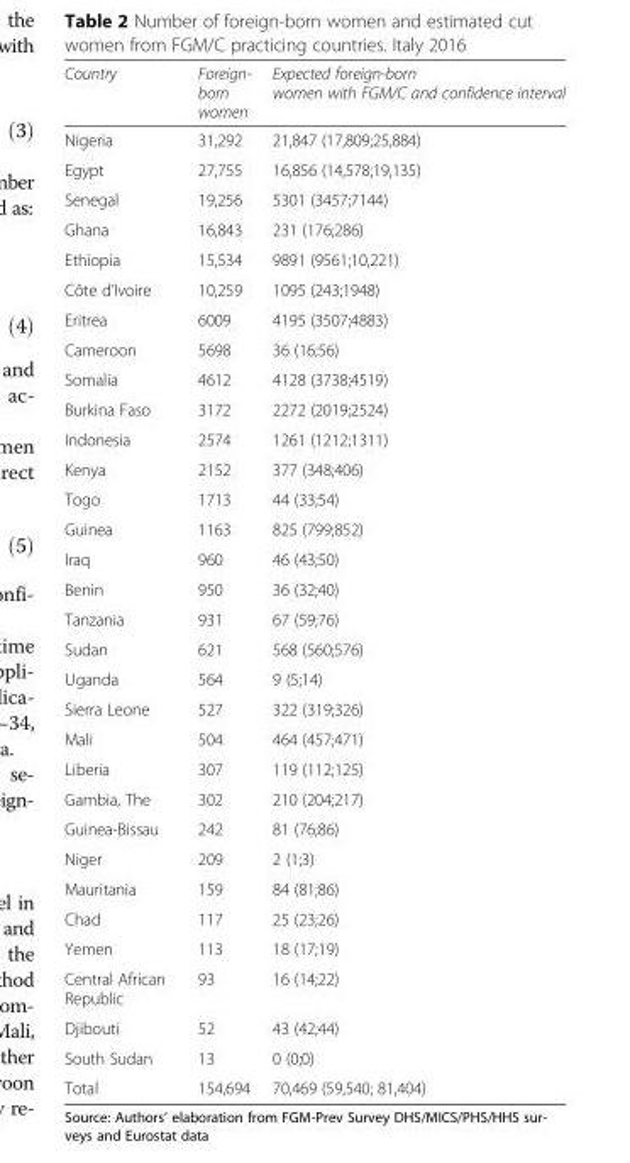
<table><thead><tr><td>Country</td><td>Foreign- born women</td><td>Expected foreign-born women with FGM/C and confidence interval</td></tr></thead><tbody><tr><td>Nigeria</td><td>31,292</td><td>21,847 (17,809;25,884)</td></tr><tr><td>Egypt</td><td>27,755</td><td>16,856 (14,578;19,135)</td></tr><tr><td>Senegal</td><td>19,256</td><td>5301 (3457;7144)</td></tr><tr><td>Ghana</td><td>16,843</td><td>231 (176;286)</td></tr><tr><td>Ethiopia</td><td>15,534</td><td>9891 (9561;10,221)</td></tr><tr><td>Côte d’Ivoire</td><td>10,259</td><td>1095 (243;1948)</td></tr><tr><td>Eritrea</td><td>6009</td><td>4195 (3507;4883)</td></tr><tr><td>Cameroon</td><td>5698</td><td>36 (16;56)</td></tr><tr><td>Somalia</td><td>4612</td><td>4128 (3738;4519)</td></tr><tr><td>Burkina Faso</td><td>3172</td><td>2272 (2019;2524)</td></tr><tr><td>Indonesia</td><td>2574</td><td>1261 (1212;1311)</td></tr><tr><td>Kenya</td><td>2152</td><td>377 (348;406)</td></tr><tr><td>Togo</td><td>1713</td><td>44 (33;54)</td></tr><tr><td>Guinea</td><td>1163</td><td>825 (799;852)</td></tr><tr><td>Iraq</td><td>960</td><td>46 (43;50)</td></tr><tr><td>Benin</td><td>950</td><td>36 (32;40)</td></tr><tr><td>Tanzania</td><td>931</td><td>67 (59;76)</td></tr><tr><td>Sudan</td><td>621</td><td>568 (560;576)</td></tr><tr><td>Uganda</td><td>564</td><td>9 (5;14)</td></tr><tr><td>Sierra Leone</td><td>527</td><td>322 (319;326)</td></tr><tr><td>Mali</td><td>504</td><td>464 (457;471)</td></tr><tr><td>Liberia</td><td>307</td><td>119 (112;125)</td></tr><tr><td>Gambia, The</td><td>302</td><td>210 (204;217)</td></tr><tr><td>Guinea-Bissau</td><td>242</td><td>81 (76;86)</td></tr><tr><td>Niger</td><td>209</td><td>2 (1;3)</td></tr><tr><td>Mauritania</td><td>159</td><td>84 (81;86)</td></tr><tr><td>Chad</td><td>117</td><td>25 (23;26)</td></tr><tr><td>Yemen</td><td>113</td><td>18 (17;19)</td></tr><tr><td>Central African Republic</td><td>93</td><td>16 (14;22)</td></tr><tr><td>Djibouti</td><td>52</td><td>43 (42;44)</td></tr><tr><td>South Sudan</td><td>13</td><td>0 (0;0)</td></tr><tr><td>Total</td><td>154,694</td><td>70,469 (59,540; 81,404)</td></tr></tbody></table>